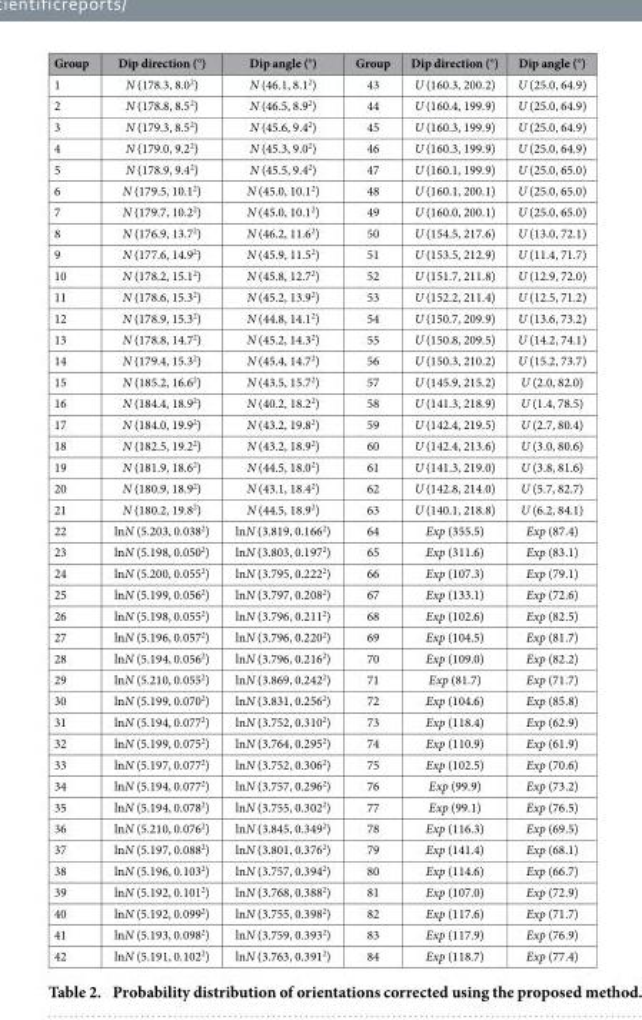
<table><thead><tr><td>Group</td><td>Dip direction (°)</td><td>Dip angle (°)</td><td>Group</td><td>Dip direction (°)</td><td>Dip angle (°)</td></tr></thead><tbody><tr><td>1</td><td>N (178.3, 8.0<sup>2</sup>)</td><td>N (46.1, 8.1<sup>2</sup>)</td><td>43</td><td>U (160.3, 200.2)</td><td>U (25.0, 64.9)</td></tr><tr><td>2</td><td>N (178.8, 8.5<sup>2</sup>)</td><td>N (46.5, 8.9<sup>2</sup>)</td><td>44</td><td>U (160.4, 199.9)</td><td>U (25.0, 64.9)</td></tr><tr><td>3</td><td>N (179.3, 8.5<sup>2</sup>)</td><td>N (45.6, 9.4<sup>2</sup>)</td><td>45</td><td>U (160.3, 199.9)</td><td>U (25.0, 64.9)</td></tr><tr><td>4</td><td>N (179.0, 9.2<sup>2</sup>)</td><td>N (45.3, 9.0<sup>2</sup>)</td><td>46</td><td>U (160.3, 199.9)</td><td>U (25.0, 64.9)</td></tr><tr><td>5</td><td>N (178.9, 9.4<sup>2</sup>)</td><td>N (45.5, 9.4<sup>2</sup>)</td><td>47</td><td>U (160.1, 199.9)</td><td>U (25.0, 65.0)</td></tr><tr><td>6</td><td>N (179.5, 10.1<sup>2</sup>)</td><td>N (45.0, 10.1<sup>2</sup>)</td><td>48</td><td>U (160.1, 200.1)</td><td>U (25.0, 65.0)</td></tr><tr><td>7</td><td>N (179.7, 10.2<sup>2</sup>)</td><td>N (45.0, 10.1<sup>2</sup>)</td><td>49</td><td>U (160.0, 200.1)</td><td>U (25.0, 65.0)</td></tr><tr><td>8</td><td>N (176.9, 13.7<sup>2</sup>)</td><td>N (46.2, 11.6<sup>2</sup>)</td><td>50</td><td>U (154.5, 217.6)</td><td>U (13.0, 72.1)</td></tr><tr><td>9</td><td>N (177.6, 14.9<sup>2</sup>)</td><td>N (45.9, 11.5<sup>2</sup>)</td><td>51</td><td>U (153.5, 212.9)</td><td>U (11.4, 71.7)</td></tr><tr><td>10</td><td>N (178.2, 15.1<sup>2</sup>)</td><td>N (45.8, 12.7<sup>2</sup>)</td><td>52</td><td>U (151.7, 211.8)</td><td>U (12.9, 72.0)</td></tr><tr><td>11</td><td>N (178.6, 15.3<sup>2</sup>)</td><td>N (45.2, 13.9<sup>2</sup>)</td><td>53</td><td>U (152.2, 211.4)</td><td>U (12.5, 71.2)</td></tr><tr><td>12</td><td>N (178.9, 15.3<sup>2</sup>)</td><td>N (44.8, 14.1<sup>2</sup>)</td><td>54</td><td>U (150.7, 209.9)</td><td>U (13.6, 73.2)</td></tr><tr><td>13</td><td>N (178.8, 14.7<sup>2</sup>)</td><td>N (45.2, 14.3<sup>2</sup>)</td><td>55</td><td>U (150.8, 209.5)</td><td>U (14.2, 74.1)</td></tr><tr><td>14</td><td>N (179.4, 15.3<sup>2</sup>)</td><td>N (45.4, 14.7<sup>2</sup>)</td><td>56</td><td>U (150.3, 210.2)</td><td>U (15.2, 73.7)</td></tr><tr><td>15</td><td>N (185.2, 16.6<sup>2</sup>)</td><td>N (43.5, 15.7<sup>2</sup>)</td><td>57</td><td>U (145.9, 215.2)</td><td>U (2.0, 82.0)</td></tr><tr><td>16</td><td>N (184.4, 18.9<sup>2</sup>)</td><td>N (40.2, 18.2<sup>2</sup>)</td><td>58</td><td>U (141.3, 218.9)</td><td>U (1.4, 78.5)</td></tr><tr><td>17</td><td>N (184.0, 19.9<sup>2</sup>)</td><td>N (43.2, 19.8<sup>2</sup>)</td><td>59</td><td>U (142.4, 219.5)</td><td>U (2.7, 80.4)</td></tr><tr><td>18</td><td>N (182.5, 19.2<sup>2</sup>)</td><td>N (43.2, 18.9<sup>2</sup>)</td><td>60</td><td>U (142.4, 213.6)</td><td>U (3.0, 80.6)</td></tr><tr><td>19</td><td>N (181.9, 18.6<sup>2</sup>)</td><td>N (44.5, 18.0<sup>2</sup>)</td><td>61</td><td>U (141.3, 219.0)</td><td>U (3.8, 81.6)</td></tr><tr><td>20</td><td>N (180.9, 18.9<sup>2</sup>)</td><td>N (43.1, 18.4<sup>2</sup>)</td><td>62</td><td>U (142.8, 214.0)</td><td>U (5.7, 82.7)</td></tr><tr><td>21</td><td>N (180.2, 19.8<sup>2</sup>)</td><td>N (44.5, 18.9<sup>2</sup>)</td><td>63</td><td>U (140.1, 218.8)</td><td>U (6.2, 84.1)</td></tr><tr><td>22</td><td>lnN (5.203, 0.038<sup>2</sup>)</td><td>lnN (3.819, 0.166<sup>2</sup>)</td><td>64</td><td>Exp (355.5)</td><td>Exp (87.4)</td></tr><tr><td>23</td><td>lnN (5.198, 0.050<sup>2</sup>)</td><td>lnN (3.803, 0.197<sup>2</sup>)</td><td>65</td><td>Exp (311.6)</td><td>Exp (83.1)</td></tr><tr><td>24</td><td>lnN (5.200, 0.055<sup>2</sup>)</td><td>lnN (3.795, 0.222<sup>2</sup>)</td><td>66</td><td>Exp (107.3)</td><td>Exp (79.1)</td></tr><tr><td>25</td><td>lnN (5.199, 0.056<sup>2</sup>)</td><td>lnN (3.797, 0.208<sup>2</sup>)</td><td>67</td><td>Exp (133.1)</td><td>Exp (72.6)</td></tr><tr><td>26</td><td>lnN (5.198, 0.055<sup>2</sup>)</td><td>lnN (3.796, 0.211<sup>2</sup>)</td><td>68</td><td>Exp (102.6)</td><td>Exp (82.5)</td></tr><tr><td>27</td><td>lnN (5.196, 0.057<sup>2</sup>)</td><td>lnN (3.796, 0.220<sup>2</sup>)</td><td>69</td><td>Exp (104.5)</td><td>Exp (81.7)</td></tr><tr><td>28</td><td>lnN (5.194, 0.056<sup>2</sup>)</td><td>lnN (3.796, 0.216<sup>2</sup>)</td><td>70</td><td>Exp (109.0)</td><td>Exp (82.2)</td></tr><tr><td>29</td><td>lnN (5.210, 0.055<sup>2</sup>)</td><td>lnN (3.869, 0.242<sup>2</sup>)</td><td>71</td><td>Exp (81.7)</td><td>Exp (71.7)</td></tr><tr><td>30</td><td>lnN (5.199, 0.070<sup>2</sup>)</td><td>lnN (3.831, 0.256<sup>2</sup>)</td><td>72</td><td>Exp (104.6)</td><td>Exp (85.8)</td></tr><tr><td>31</td><td>lnN (5.194, 0.077<sup>2</sup>)</td><td>lnN (3.752, 0.310<sup>2</sup>)</td><td>73</td><td>Exp (118.4)</td><td>Exp (62.9)</td></tr><tr><td>32</td><td>lnN (5.199, 0.075<sup>2</sup>)</td><td>lnN (3.764, 0.295<sup>2</sup>)</td><td>74</td><td>Exp (110.9)</td><td>Exp (61.9)</td></tr><tr><td>33</td><td>lnN (5.197, 0.077<sup>2</sup>)</td><td>lnN (3.752, 0.306<sup>2</sup>)</td><td>75</td><td>Exp (102.5)</td><td>Exp (70.6)</td></tr><tr><td>34</td><td>lnN (5.194, 0.077<sup>2</sup>)</td><td>lnN (3.757, 0.296<sup>2</sup>)</td><td>76</td><td>Exp (99.9)</td><td>Exp (73.2)</td></tr><tr><td>35</td><td>lnN (5.194, 0.078<sup>2</sup>)</td><td>lnN (3.755, 0.302<sup>2</sup>)</td><td>77</td><td>Exp (99.1)</td><td>Exp (76.5)</td></tr><tr><td>36</td><td>lnN (5.210, 0.076<sup>2</sup>)</td><td>lnN (3.845, 0.349<sup>2</sup>)</td><td>78</td><td>Exp (116.3)</td><td>Exp (69.5)</td></tr><tr><td>37</td><td>lnN (5.197, 0.088<sup>2</sup>)</td><td>lnN (3.801, 0.376<sup>2</sup>)</td><td>79</td><td>Exp (141.4)</td><td>Exp (68.1)</td></tr><tr><td>38</td><td>lnN (5.196, 0.103<sup>2</sup>)</td><td>lnN (3.757, 0.394<sup>2</sup>)</td><td>80</td><td>Exp (114.6)</td><td>Exp (66.7)</td></tr><tr><td>39</td><td>lnN (5.192, 0.101<sup>2</sup>)</td><td>lnN (3.768, 0.388<sup>2</sup>)</td><td>81</td><td>Exp (107.0)</td><td>Exp (72.9)</td></tr><tr><td>40</td><td>lnN (5.192, 0.099<sup>2</sup>)</td><td>lnN (3.755, 0.398<sup>2</sup>)</td><td>82</td><td>Exp (117.6)</td><td>Exp (71.7)</td></tr><tr><td>41</td><td>lnN (5.193, 0.098<sup>2</sup>)</td><td>lnN (3.759, 0.393<sup>2</sup>)</td><td>83</td><td>Exp (117.9)</td><td>Exp (76.9)</td></tr><tr><td>42</td><td>lnN (5.191, 0.102<sup>2</sup>)</td><td>lnN (3.763, 0.391<sup>2</sup>)</td><td>84</td><td>Exp (118.7)</td><td>Exp (77.4)</td></tr></tbody></table>